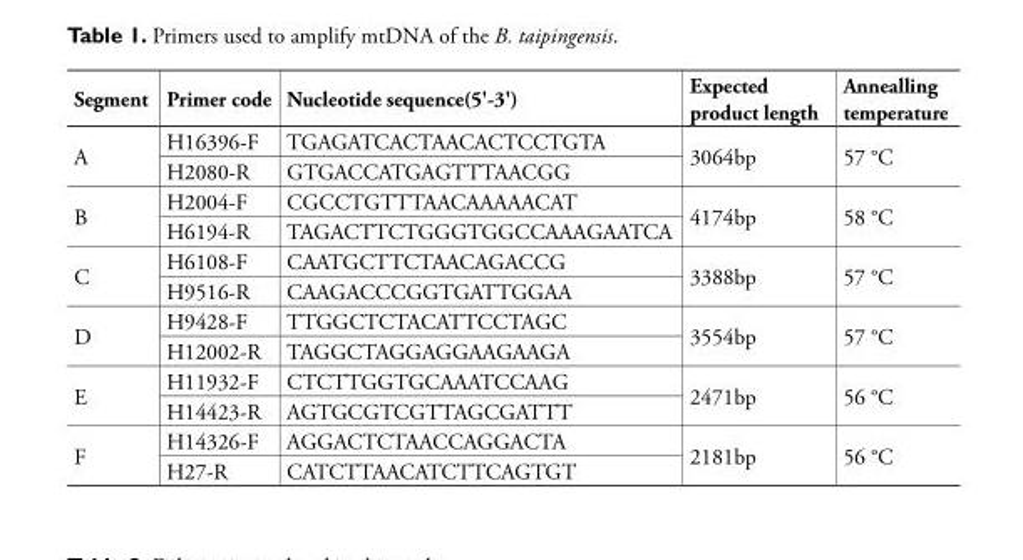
<table><thead><tr><td>Segment</td><td>Primer code</td><td>Nucleotide sequence(5&#x27;-3&#x27;)</td><td>Expected product length</td><td>Annealling temperature</td></tr></thead><tbody><tr><td rowspan="2">A</td><td>H16396-F</td><td>TGAGATCACTAACACTCCTGTA</td><td rowspan="2">3064bp</td><td rowspan="2">57 °C</td></tr><tr><td>H2080-R</td><td>GTGACCATGAGTTTAACGG</td></tr><tr><td rowspan="2">B</td><td>H2004-F</td><td>CGCCTGTTTAACAAAAACAT</td><td rowspan="2">4174bp</td><td rowspan="2">58 °C</td></tr><tr><td>H6194-R</td><td>TAGACTTCTGGGTGGCCAAAGAATCA</td></tr><tr><td rowspan="2">C</td><td>H6108-F</td><td>CAATGCTTCTAACAGACCG</td><td rowspan="2">3388bp</td><td rowspan="2">57 °C</td></tr><tr><td>H9516-R</td><td>CAAGACCCGGTGATTGGAA</td></tr><tr><td rowspan="2">D</td><td>H9428-F</td><td>TTGGCTCTACATTCCTAGC</td><td rowspan="2">3554bp</td><td rowspan="2">57 °C</td></tr><tr><td>H12002-R</td><td>TAGGCTAGGAGGAAGAAGA</td></tr><tr><td rowspan="2">E</td><td>H11932-F</td><td>CTCTTGGTGCAAATCCAAG</td><td rowspan="2">2471bp</td><td rowspan="2">56 °C</td></tr><tr><td>H14423-R</td><td>AGTGCGTCGTTAGCGATTT</td></tr><tr><td rowspan="2">F</td><td>H14326-F</td><td>AGGACTCTAACCAGGACTA</td><td rowspan="2">2181bp</td><td rowspan="2">56 °C</td></tr><tr><td>H27-R</td><td>CATCTTAACATCTTCAGTGT</td></tr></tbody></table>